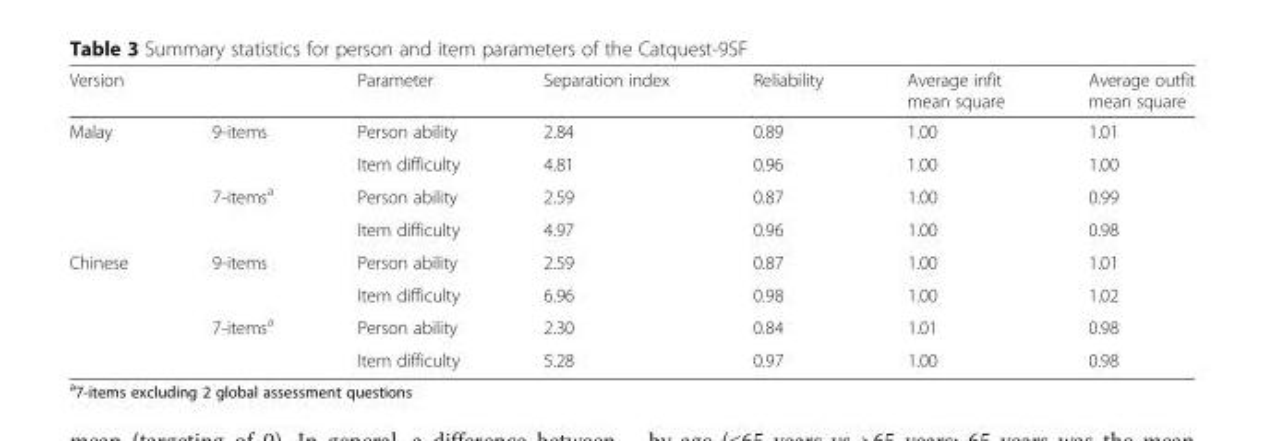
<table><thead><tr><td>Version</td><td></td><td>Parameter</td><td>Separation index</td><td>Reliability</td><td>Average infit mean square</td><td>Average outfit mean square</td></tr></thead><tbody><tr><td rowspan="4">Malay</td><td rowspan="2">9-items</td><td>Person ability</td><td>2.84</td><td>0.89</td><td>1.00</td><td>1.01</td></tr><tr><td>Item difficulty</td><td>4.81</td><td>0.96</td><td>1.00</td><td>1.00</td></tr><tr><td rowspan="2">7-items<sup>a</sup></td><td>Person ability</td><td>2.59</td><td>0.87</td><td>1.00</td><td>0.99</td></tr><tr><td>Item difficulty</td><td>4.97</td><td>0.96</td><td>1.00</td><td>0.98</td></tr><tr><td rowspan="4">Chinese</td><td rowspan="2">9-items</td><td>Person ability</td><td>2.59</td><td>0.87</td><td>1.00</td><td>1.01</td></tr><tr><td>Item difficulty</td><td>6.96</td><td>0.98</td><td>1.00</td><td>1.02</td></tr><tr><td rowspan="2">7-items<sup>a</sup></td><td>Person ability</td><td>2.30</td><td>0.84</td><td>1.01</td><td>0.98</td></tr><tr><td>Item difficulty</td><td>5.28</td><td>0.97</td><td>1.00</td><td>0.98</td></tr></tbody></table>